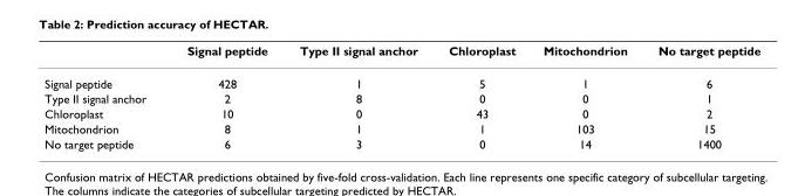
<table><thead><tr><td></td><td>Signal peptide</td><td>Type II signal anchor</td><td>Chloroplast</td><td>Mitochondrion</td><td>No target peptide</td></tr></thead><tbody><tr><td>Signal peptide</td><td>428</td><td>1</td><td>5</td><td>1</td><td>6</td></tr><tr><td>Type II signal anchor</td><td>2</td><td>8</td><td>0</td><td>0</td><td>1</td></tr><tr><td>Chloroplast</td><td>10</td><td>0</td><td>43</td><td>0</td><td>2</td></tr><tr><td>Mitochondrion</td><td>8</td><td>1</td><td>1</td><td>103</td><td>15</td></tr><tr><td>No target peptide</td><td>6</td><td>3</td><td>0</td><td>14</td><td>1400</td></tr></tbody></table>